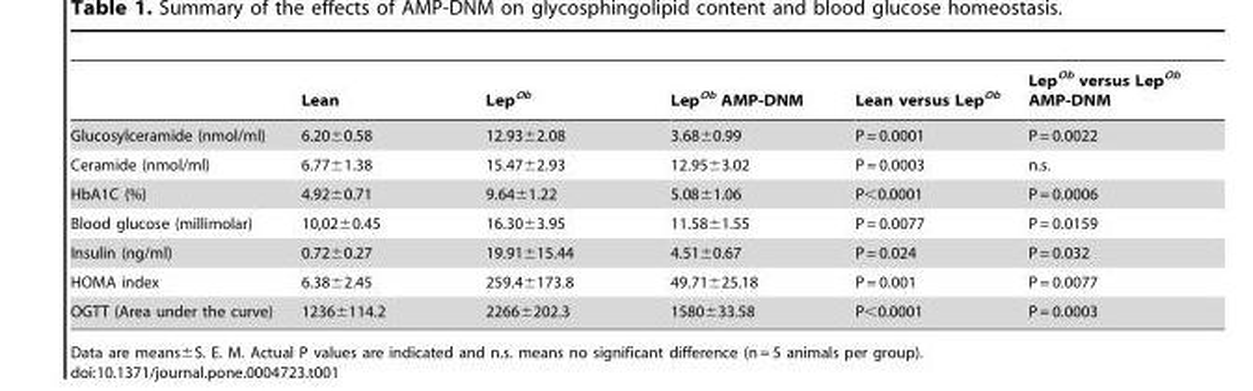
<table><thead><tr><td></td><td>Lean</td><td>Lep<sup>Ob</sup></td><td>Lep<sup>Ob</sup> AMP-DNM</td><td>Lean versus Lep<sup>Ob</sup></td><td>Lep<sup>Ob</sup> versus Lep<sup>Ob</sup> AMP-DNM</td></tr></thead><tbody><tr><td>Glucosylceramide (nmol/ml)</td><td>6.20±0.58</td><td>12.93±2.08</td><td>3.68±0.99</td><td>P = 0.0001</td><td>P = 0.0022</td></tr><tr><td>Ceramide (nmol/ml)</td><td>6.77±1.38</td><td>15.47±2.93</td><td>12.95±3.02</td><td>P = 0.0003</td><td>n.s.</td></tr><tr><td>HbA1C (%)</td><td>4.92±0.71</td><td>9.64±1.22</td><td>5.08±1.06</td><td>P&lt;0.0001</td><td>P = 0.0006</td></tr><tr><td>Blood glucose (millimolar)</td><td>10,02±0.45</td><td>16.30±3.95</td><td>11.58±1.55</td><td>P = 0.0077</td><td>P = 0.0159</td></tr><tr><td>Insulin (ng/ml)</td><td>0.72±0.27</td><td>19.91±15.44</td><td>4.51±0.67</td><td>P = 0.024</td><td>P = 0.032</td></tr><tr><td>HOMA index</td><td>6.38±2.45</td><td>259.4±173.8</td><td>49.71±25.18</td><td>P = 0.001</td><td>P = 0.0077</td></tr><tr><td>OGTT (Area under the curve)</td><td>1236±114.2</td><td>2266±202.3</td><td>1580±33.58</td><td>P&lt;0.0001</td><td>P = 0.0003</td></tr></tbody></table>